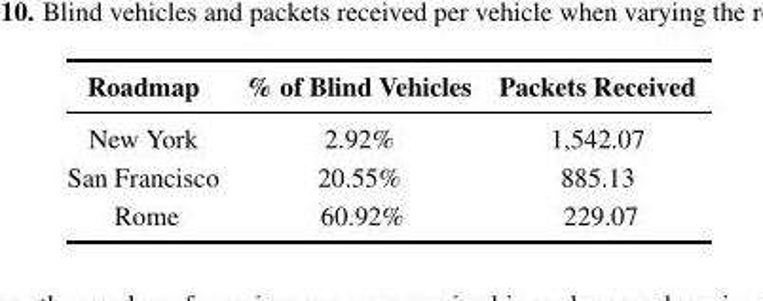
<table><thead><tr><td>Roadmap</td><td>% of Blind Vehicles</td><td>Packets Received</td></tr></thead><tbody><tr><td>New York</td><td>2.92%</td><td>1,542.07</td></tr><tr><td>San Francisco</td><td>20.55%</td><td>885.13</td></tr><tr><td>Rome</td><td>60.92%</td><td>229.07</td></tr></tbody></table>